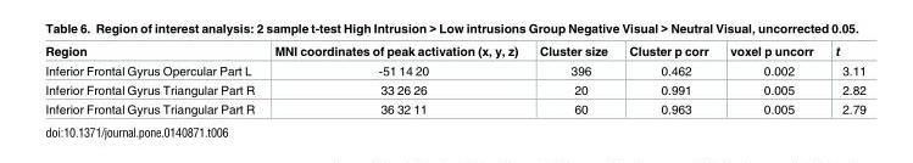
<table><thead><tr><td>Region</td><td>MNI coordinates of peak activation (x, y, z)</td><td>Cluster size</td><td>Cluster p corr</td><td>voxel p uncorr</td><td>t</td></tr></thead><tbody><tr><td>Inferior Frontal Gyrus Opercular Part L</td><td>-51 14 20</td><td>396</td><td>0.462</td><td>0.002</td><td>3.11</td></tr><tr><td>Inferior Frontal Gyrus Triangular Part R</td><td>33 26 26</td><td>20</td><td>0.991</td><td>0.005</td><td>2.82</td></tr><tr><td>Inferior Frontal Gyrus Triangular Part R</td><td>36 32 11</td><td>60</td><td>0.963</td><td>0.005</td><td>2.79</td></tr></tbody></table>